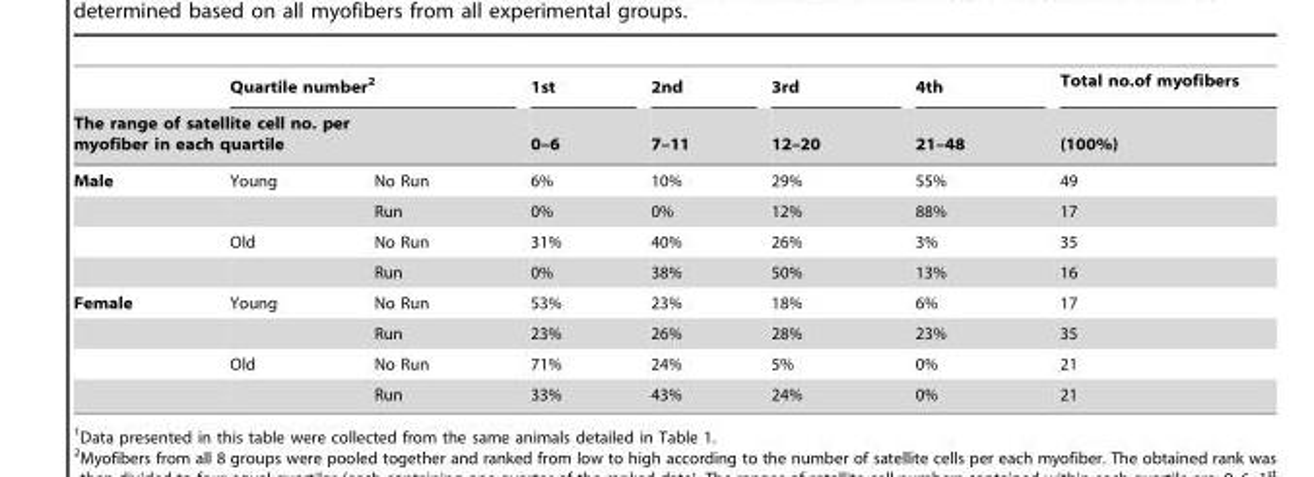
<table><thead><tr><td></td><td colspan="2">Quartile number<sup>2</sup></td><td rowspan="3">1st 0–6 6%</td><td rowspan="3">2nd 7–11 10%</td><td rowspan="3">3rd 12–20 29%</td><td rowspan="3">4th 21–48 55%</td><td rowspan="3">Total no.of myofibers (100%) 49</td></tr><tr><td colspan="3">The range of satellite cell no. per myofiber in each quartile</td></tr><tr><td>Male</td><td>Young</td><td>No Run</td></tr></thead><tbody><tr><td></td><td></td><td>Run</td><td>0%</td><td>0%</td><td>12%</td><td>88%</td><td>17</td></tr><tr><td></td><td>Old</td><td>No Run</td><td>31%</td><td>40%</td><td>26%</td><td>3%</td><td>35</td></tr><tr><td></td><td></td><td>Run</td><td>0%</td><td>38%</td><td>50%</td><td>13%</td><td>16</td></tr><tr><td rowspan="4">Female</td><td>Young</td><td>No Run</td><td>53%</td><td>23%</td><td>18%</td><td>6%</td><td>17</td></tr><tr><td></td><td>Run</td><td>23%</td><td>26%</td><td>28%</td><td>23%</td><td>35</td></tr><tr><td>Old</td><td>No Run</td><td>71%</td><td>24%</td><td>5%</td><td>0%</td><td>21</td></tr><tr><td></td><td>Run</td><td>33%</td><td>43%</td><td>24%</td><td>0%</td><td>21</td></tr></tbody></table>